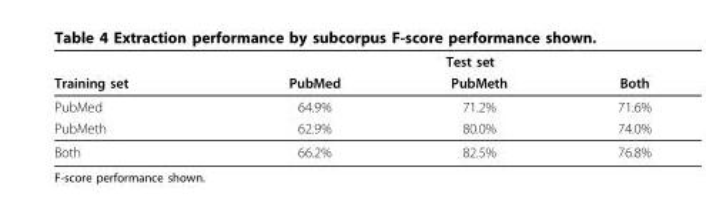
<table><thead><tr><td rowspan="2">Training set</td><td colspan="3">Test set</td></tr><tr><td>PubMed</td><td>PubMeth</td><td>Both</td></tr></thead><tbody><tr><td>PubMed</td><td>64.9%</td><td>71.2%</td><td>71.6%</td></tr><tr><td>PubMeth</td><td>62.9%</td><td>80.0%</td><td>74.0%</td></tr><tr><td>Both</td><td>66.2%</td><td>82.5%</td><td>76.8%</td></tr></tbody></table>